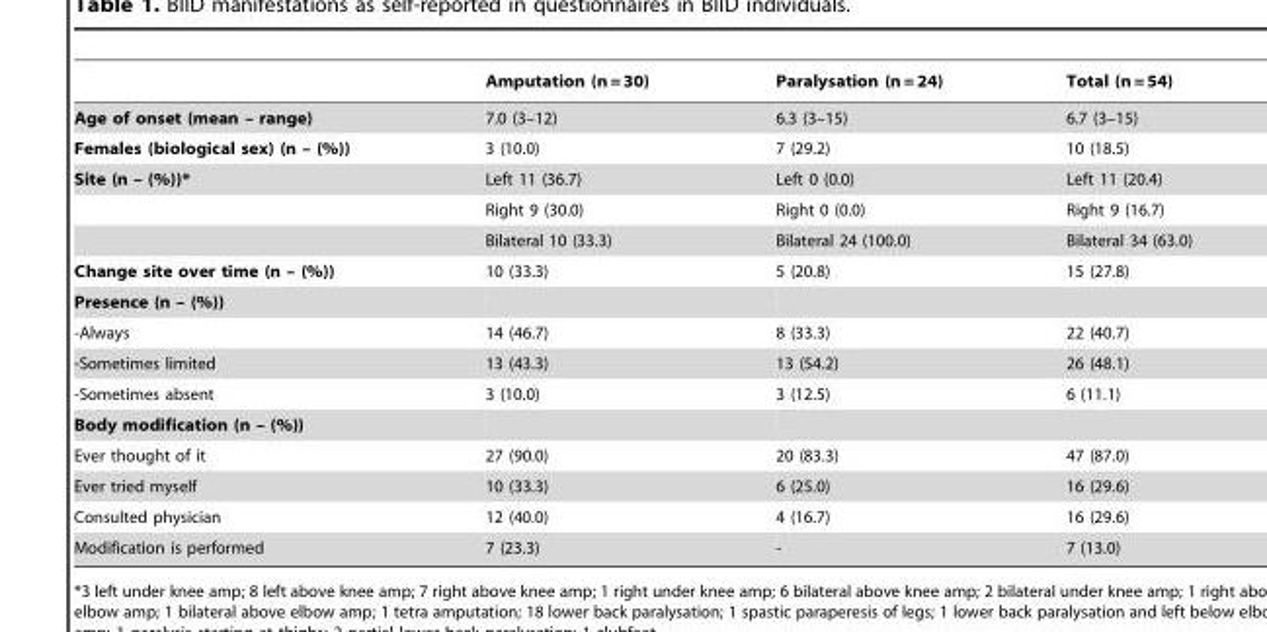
<table><thead><tr><td></td><td>Amputation (n = 30)</td><td>Paralysation (n = 24)</td><td>Total (n = 54)</td></tr></thead><tbody><tr><td>Age of onset (mean – range)</td><td>7.0 (3–12)</td><td>6.3 (3–15)</td><td>6.7 (3–15)</td></tr><tr><td>Females (biological sex) (n – (%))</td><td>3 (10.0)</td><td>7 (29.2)</td><td>10 (18.5)</td></tr><tr><td rowspan="3">Site (n – (%))*</td><td>Left 11 (36.7)</td><td>Left 0 (0.0)</td><td>Left 11 (20.4)</td></tr><tr><td>Right 9 (30.0)</td><td>Right 0 (0.0)</td><td>Right 9 (16.7)</td></tr><tr><td>Bilateral 10 (33.3)</td><td>Bilateral 24 (100.0)</td><td>Bilateral 34 (63.0)</td></tr><tr><td>Change site over time (n – (%))</td><td>10 (33.3)</td><td>5 (20.8)</td><td>15 (27.8)</td></tr><tr><td colspan="4">Presence (n – (%))</td></tr><tr><td>-Always</td><td>14 (46.7)</td><td>8 (33.3)</td><td>22 (40.7)</td></tr><tr><td>-Sometimes limited</td><td>13 (43.3)</td><td>13 (54.2)</td><td>26 (48.1)</td></tr><tr><td>-Sometimes absent</td><td>3 (10.0)</td><td>3 (12.5)</td><td>6 (11.1)</td></tr><tr><td colspan="4">Body modification (n – (%))</td></tr><tr><td>Ever thought of it</td><td>27 (90.0)</td><td>20 (83.3)</td><td>47 (87.0)</td></tr><tr><td>Ever tried myself</td><td>10 (33.3)</td><td>6 (25.0)</td><td>16 (29.6)</td></tr><tr><td>Consulted physician</td><td>12 (40.0)</td><td>4 (16.7)</td><td>16 (29.6)</td></tr><tr><td>Modification is performed</td><td>7 (23.3)</td><td>-</td><td>7 (13.0)</td></tr></tbody></table>